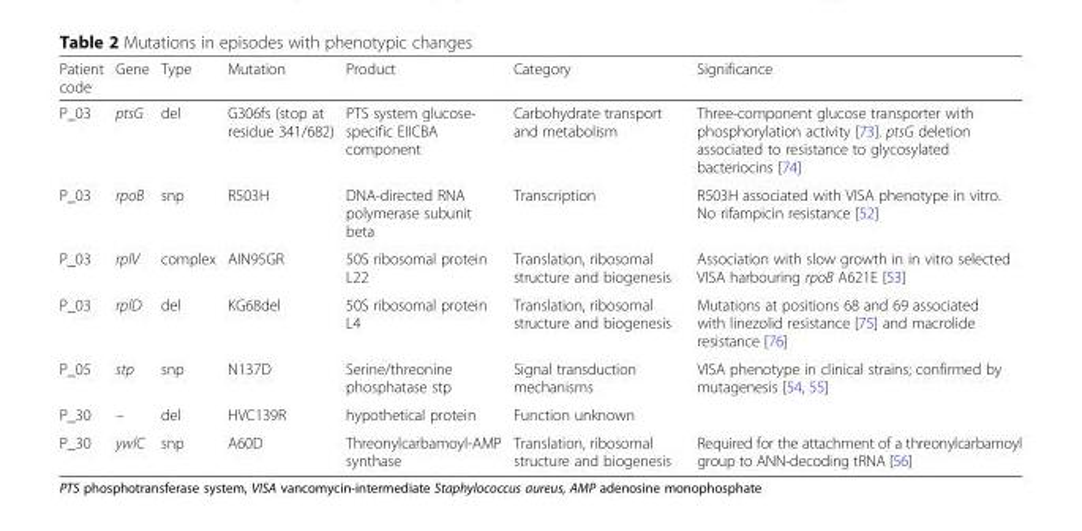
<table><thead><tr><td>Patient code</td><td>Gene</td><td>Type</td><td>Mutation</td><td>Product</td><td>Category</td><td>Significance</td></tr></thead><tbody><tr><td>P_03</td><td>ptsG</td><td>del</td><td>G306fs (stop at residue 341/682)</td><td>PTS system glucose- specific EIICBA component</td><td>Carbohydrate transport and metabolism</td><td>Three-component glucose transporter with phosphorylation activity [73]. ptsG deletion associated to resistance to glycosylated bacteriocins [74]</td></tr><tr><td>P_03</td><td>rpoB</td><td>snp</td><td>R503H</td><td>DNA-directed RNA polymerase subunit beta</td><td>Transcription</td><td>R503H associated with VISA phenotype in vitro. No rifampicin resistance [52]</td></tr><tr><td>P_03</td><td>rplV</td><td>complex</td><td>AIN95GR</td><td>50S ribosomal protein L22</td><td>Translation, ribosomal structure and biogenesis</td><td>Association with slow growth in in vitro selected VISA harbouring rpoB A621E [53]</td></tr><tr><td>P_03</td><td>rplD</td><td>del</td><td>KG68del</td><td>50S ribosomal protein L4</td><td>Translation, ribosomal structure and biogenesis</td><td>Mutations at positions 68 and 69 associated with linezolid resistance [75] and macrolide resistance [76]</td></tr><tr><td>P_05</td><td>stp</td><td>snp</td><td>N137D</td><td>Serine/threonine phosphatase stp</td><td>Signal transduction mechanisms</td><td>VISA phenotype in clinical strains; confirmed by mutagenesis [54, 55]</td></tr><tr><td>P_30</td><td>–</td><td>del</td><td>HVC139R</td><td>hypothetical protein</td><td>Function unknown</td><td></td></tr><tr><td>P_30</td><td>ywlC</td><td>snp</td><td>A60D</td><td>Threonylcarbamoyl-AMP synthase</td><td>Translation, ribosomal structure and biogenesis</td><td>Required for the attachment of a threonylcarbamoyl group to ANN-decoding tRNA [56]</td></tr></tbody></table>